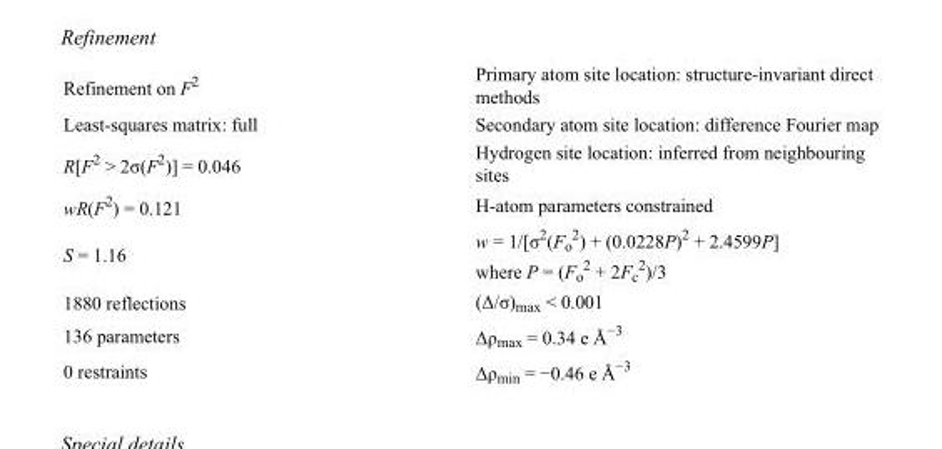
<table><tbody><tr><td>Refinement on F<sup>2</sup></td><td>Primary atom site location: structure-invariant direct methods</td></tr><tr><td>Least-squares matrix: full</td><td>Secondary atom site location: difference Fourier map</td></tr><tr><td>R[F<sup>2</sup> &gt; 2σ(F<sup>2</sup>)] = 0.046</td><td>Hydrogen site location: inferred from neighbouring sites</td></tr><tr><td>wR(F<sup>2</sup>) = 0.121</td><td>H-atom parameters constrained</td></tr><tr><td>S = 1.16</td><td>w = 1/[σ<sup>2</sup>(F<sub>o</sub> <sup>2</sup>) + (0.0228P)<sup>2</sup> + 2.4599P] where P = (F<sub>o</sub> <sup>2</sup> + 2F<sub>c</sub> <sup>2</sup>)/3</td></tr><tr><td>1880 reflections</td><td>(Δ/σ)<sub>max</sub> &lt; 0.001</td></tr><tr><td>136 parameters</td><td>Δρ<sub>max</sub> = 0.34 e Å<sup>−3</sup></td></tr><tr><td>0 restraints</td><td>Δρmin = −0.46 e Å−3</td></tr></tbody></table>